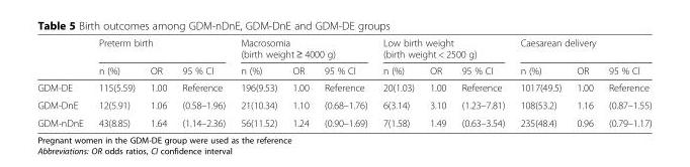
<table><thead><tr><td rowspan="2"></td><td colspan="3">Preterm birth</td><td colspan="3">Macrosomia (birth weight ≥ 4000 g)</td><td colspan="3">Low birth weight (birth weight &lt; 2500 g)</td><td colspan="3">Caesarean delivery</td></tr><tr><td>n (%)</td><td>OR</td><td>95 % CI</td><td>n (%)</td><td>OR</td><td>95 % CI</td><td>n (%)</td><td>OR</td><td>95 % CI</td><td>n (%)</td><td>OR</td><td>95 % CI</td></tr></thead><tbody><tr><td>GDM-DE</td><td>115(5.59)</td><td>1.00</td><td>Reference</td><td>196(9.53)</td><td>1.00</td><td>Reference</td><td>20(1.03)</td><td>1.00</td><td>Reference</td><td>1017(49.5)</td><td>1.00</td><td>Reference</td></tr><tr><td>GDM-DnE</td><td>12(5.91)</td><td>1.06</td><td>(0.58–1.96)</td><td>21(10.34)</td><td>1.10</td><td>(0.68–1.76)</td><td>6(3.14)</td><td>3.10</td><td>(1.23–7.81)</td><td>108(53.2)</td><td>1.16</td><td>(0.87–1.55)</td></tr><tr><td>GDM-nDnE</td><td>43(8.85)</td><td>1.64</td><td>(1.14–2.36)</td><td>56(11.52)</td><td>1.24</td><td>(0.90–1.69)</td><td>7(1.58)</td><td>1.49</td><td>(0.63–3.54)</td><td>235(48.4)</td><td>0.96</td><td>(0.79–1.17)</td></tr></tbody></table>